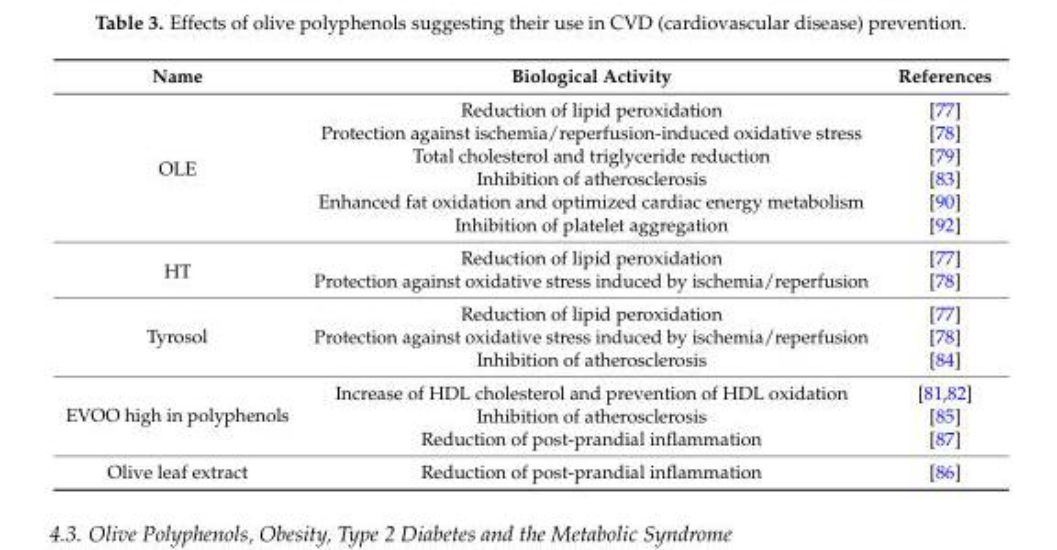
<table><thead><tr><td>Name</td><td>Biological Activity</td><td>References</td></tr></thead><tbody><tr><td rowspan="6">OLE</td><td>Reduction of lipid peroxidation</td><td>[77]</td></tr><tr><td>Protection against ischemia/reperfusion-induced oxidative stress</td><td>[78]</td></tr><tr><td>Total cholesterol and triglyceride reduction</td><td>[79]</td></tr><tr><td>Inhibition of atherosclerosis</td><td>[83]</td></tr><tr><td>Enhanced fat oxidation and optimized cardiac energy metabolism</td><td>[90]</td></tr><tr><td>Inhibition of platelet aggregation</td><td>[92]</td></tr><tr><td rowspan="2">HT</td><td>Reduction of lipid peroxidation</td><td>[77]</td></tr><tr><td>Protection against oxidative stress induced by ischemia/reperfusion</td><td>[78]</td></tr><tr><td rowspan="3">Tyrosol</td><td>Reduction of lipid peroxidation</td><td>[77]</td></tr><tr><td>Protection against oxidative stress induced by ischemia/reperfusion</td><td>[78]</td></tr><tr><td>Inhibition of atherosclerosis</td><td>[84]</td></tr><tr><td rowspan="3">EVOO high in polyphenols</td><td>Increase of HDL cholesterol and prevention of HDL oxidation</td><td>[81,82]</td></tr><tr><td>Inhibition of atherosclerosis</td><td>[85]</td></tr><tr><td>Reduction of post-prandial inflammation</td><td>[87]</td></tr><tr><td>Olive leaf extract</td><td>Reduction of post-prandial inflammation</td><td>[86]</td></tr></tbody></table>